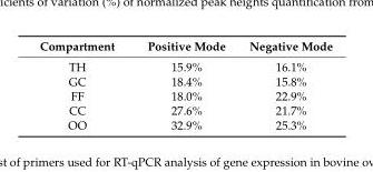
<table><thead><tr><td>Compartment</td><td>Positive Mode</td><td>Negative Mode</td></tr></thead><tbody><tr><td>TH</td><td>15.9%</td><td>16.1%</td></tr><tr><td>GC</td><td>18.4%</td><td>15.8%</td></tr><tr><td>FF</td><td>18.0%</td><td>22.9%</td></tr><tr><td>CC</td><td>27.6%</td><td>21.7%</td></tr><tr><td>OO</td><td>32.9%</td><td>25.3%</td></tr></tbody></table>